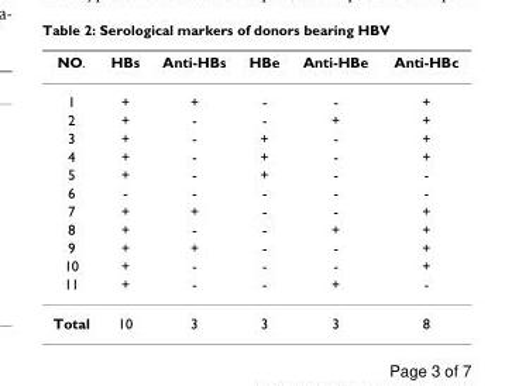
<table><thead><tr><td>NO.</td><td>HBs</td><td>Anti-HBs</td><td>HBe</td><td>Anti-HBe</td><td>Anti-HBc</td></tr></thead><tbody><tr><td>1</td><td>+</td><td>+</td><td>-</td><td>-</td><td>+</td></tr><tr><td>2</td><td>+</td><td>-</td><td>-</td><td>+</td><td>+</td></tr><tr><td>3</td><td>+</td><td>-</td><td>+</td><td>-</td><td>+</td></tr><tr><td>4</td><td>+</td><td>-</td><td>+</td><td>-</td><td>+</td></tr><tr><td>5</td><td>+</td><td>-</td><td>+</td><td>-</td><td>-</td></tr><tr><td>6</td><td>-</td><td>-</td><td>-</td><td>-</td><td>-</td></tr><tr><td>7</td><td>+</td><td>+</td><td>-</td><td>-</td><td>+</td></tr><tr><td>8</td><td>+</td><td>-</td><td>-</td><td>+</td><td>+</td></tr><tr><td>9</td><td>+</td><td>+</td><td>-</td><td>-</td><td>+</td></tr><tr><td>10</td><td>+</td><td>-</td><td>-</td><td>-</td><td>+</td></tr><tr><td>11</td><td>+</td><td>-</td><td>-</td><td>+</td><td>-</td></tr><tr><td>Total</td><td>10</td><td>3</td><td>3</td><td>3</td><td>8</td></tr></tbody></table>